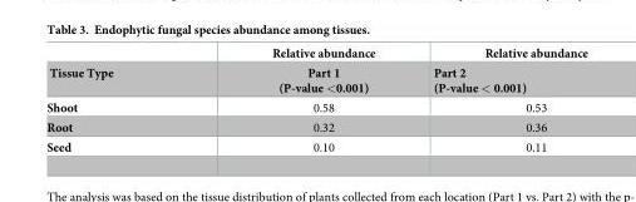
<table><thead><tr><td rowspan="2">Tissue Type</td><td rowspan="2">Relative abundance Part 1 (P-value &lt;0.001)</td><td rowspan="2">Relative abundance Part 2 (P-value &lt; 0.001)</td></tr><tr></tr></thead><tbody><tr><td>Shoot</td><td>0.58</td><td>0.53</td></tr><tr><td>Root</td><td>0.32</td><td>0.36</td></tr><tr><td>Seed</td><td>0.10</td><td>0.11</td></tr></tbody></table>